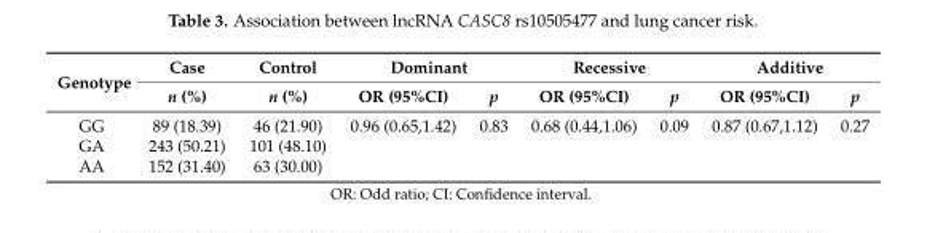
<table><thead><tr><td rowspan="2">Genotype</td><td rowspan="2">Case n (%)</td><td rowspan="2">Control n (%)</td><td colspan="2">Dominant</td><td colspan="2">Recessive</td><td colspan="2">Additive</td></tr><tr><td>OR (95%CI)</td><td>p</td><td>OR (95%CI)</td><td>p</td><td>OR (95%CI)</td><td>p</td></tr></thead><tbody><tr><td>GG</td><td>89 (18.39)</td><td>46 (21.90)</td><td>0.96 (0.65,1.42)</td><td>0.83</td><td>0.68 (0.44,1.06)</td><td>0.09</td><td>0.87 (0.67,1.12)</td><td>0.27</td></tr><tr><td>GA</td><td>243 (50.21)</td><td>101 (48.10)</td><td></td><td></td><td></td><td></td><td></td><td></td></tr><tr><td>AA</td><td>152 (31.40)</td><td>63 (30.00)</td><td></td><td></td><td></td><td></td><td></td><td></td></tr></tbody></table>